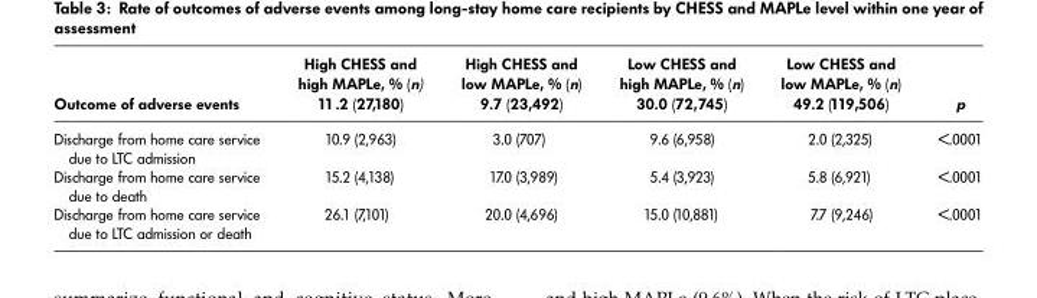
<table><thead><tr><td>Outcome of adverse events</td><td>High CHESS and high MAPLe, % (n) 11.2 (27,180)</td><td>High CHESS and low MAPLe, % (n) 9.7 (23,492)</td><td>Low CHESS and high MAPLe, % (n) 30.0 (72,745)</td><td>Low CHESS and low MAPLe, % (n) 49.2 (119,506)</td><td>p</td></tr></thead><tbody><tr><td>Discharge from home care service due to LTC admission</td><td>10.9 (2,963)</td><td>3.0 (707)</td><td>9.6 (6,958)</td><td>2.0 (2,325)</td><td>&lt;.0001</td></tr><tr><td>Discharge from home care service due to death</td><td>15.2 (4,138)</td><td>17.0 (3,989)</td><td>5.4 (3,923)</td><td>5.8 (6,921)</td><td>&lt;.0001</td></tr><tr><td>Discharge from home care service due to LTC admission or death</td><td>26.1 (7,101)</td><td>20.0 (4,696)</td><td>15.0 (10,881)</td><td>7.7 (9,246)</td><td>&lt;.0001</td></tr></tbody></table>